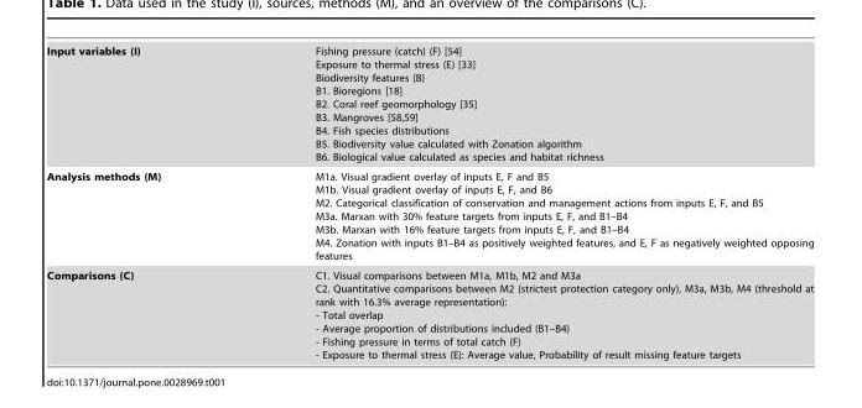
<table><tbody><tr><td>Input variables (I)</td><td>Fishing pressure (catch) (F) [54] Exposure to thermal stress (E) [33] Biodiversity features (B) B1. Bioregions [18] B2. Coral reef geomorphology [35] B3. Mangroves [58,59] B4. Fish species distributions B5. Biodiversity value calculated with Zonation algorithm B6. Biological value calculated as species and habitat richness</td></tr><tr><td>Analysis methods (M)</td><td>M1a. Visual gradient overlay of inputs E, F and B5 M1b. Visual gradient overlay of inputs E, F, and B6 M2. Categorical classification of conservation and management actions from inputs E, F, and B5 M3a. Marxan with 30% feature targets from inputs E, F, and B1–B4 M3b. Marxan with 16% feature targets from inputs E, F, and B1–B4 M4. Zonation with inputs B1–B4 as positively weighted features, and E, F as negatively weighted opposing features</td></tr><tr><td>Comparisons (C)</td><td>C1. Visual comparisons between M1a, M1b, M2 and M3a C2. Quantitative comparisons between M2 (strictest protection category only), M3a, M3b, M4 (threshold at rank with 16.3% average representation): - Total overlap - Average proportion of distributions included (B1–B4) - Fishing pressure in terms of total catch (F) - Exposure to thermal stress (E): Average value, Probability of result missing feature targets</td></tr></tbody></table>